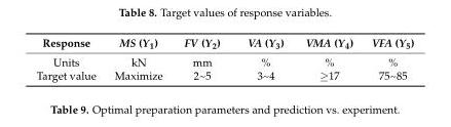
<table><thead><tr><td>Response</td><td>MS (Y<sub>1</sub>)</td><td>FV (Y<sub>2</sub>)</td><td>VA (Y<sub>3</sub>)</td><td>VMA (Y<sub>4</sub>)</td><td>VFA (Y<sub>5</sub>)</td></tr></thead><tbody><tr><td>Units</td><td>kN</td><td>mm</td><td>%</td><td>%</td><td>%</td></tr><tr><td>Target value</td><td>Maximize</td><td>2~5</td><td>3~4</td><td>≥17</td><td>75~85</td></tr></tbody></table>